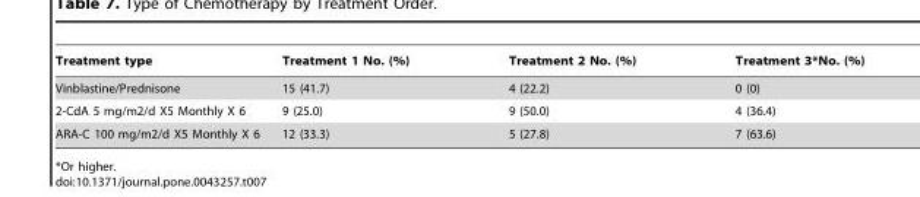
<table><thead><tr><td>Treatment type</td><td>Treatment 1 No. (%)</td><td>Treatment 2 No. (%)</td><td>Treatment 3*No. (%)</td></tr></thead><tbody><tr><td>Vinblastine/Prednisone</td><td>15 (41.7)</td><td>4 (22.2)</td><td>0 (0)</td></tr><tr><td>2-CdA 5 mg/m2/d X5 Monthly X 6</td><td>9 (25.0)</td><td>9 (50.0)</td><td>4 (36.4)</td></tr><tr><td>ARA-C 100 mg/m2/d X5 Monthly X 6</td><td>12 (33.3)</td><td>5 (27.8)</td><td>7 (63.6)</td></tr></tbody></table>